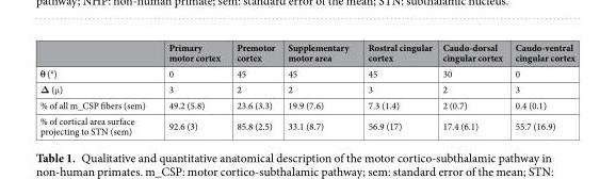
<table><thead><tr><td></td><td>Primary motor cortex</td><td>Premotor cortex</td><td>Supplementary motor area</td><td>Rostral cingular cortex</td><td>Caudo-dorsal cingular cortex</td><td>Caudo-ventral cingular cortex</td></tr></thead><tbody><tr><td>θ (°)</td><td>0</td><td>45</td><td>45</td><td>45</td><td>30</td><td>0</td></tr><tr><td>Δ (μ)</td><td>3</td><td>2</td><td>2</td><td>3</td><td>2</td><td>3</td></tr><tr><td>% of all m_CSP fibers (sem)</td><td>49.2 (5.8)</td><td>23.6 (3.3)</td><td>19.9 (7.6)</td><td>7.3 (1.4)</td><td>2 (0.7)</td><td>0.4 (0.1)</td></tr><tr><td>% of cortical area surface projecting to STN (sem)</td><td>92.6 (3)</td><td>85.8 (2.5)</td><td>33.1 (8.7)</td><td>56.9 (17)</td><td>17.4 (6.1)</td><td>55.7 (16.9)</td></tr></tbody></table>